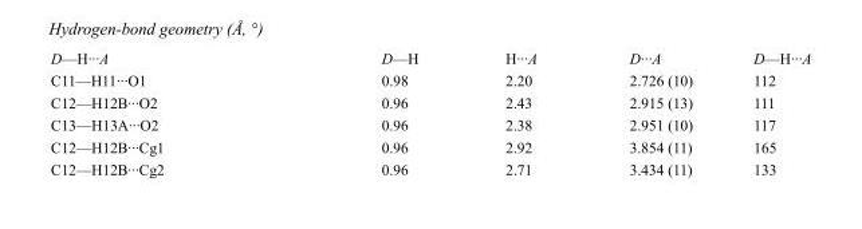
<table><tbody><tr><td>D—H···A</td><td>D—H</td><td>H···A</td><td>D···A</td><td>D—H···A</td></tr><tr><td>C11—H11···O1</td><td>0.98</td><td>2.20</td><td>2.726 (10)</td><td>112</td></tr><tr><td>C12—H12B···O2</td><td>0.96</td><td>2.43</td><td>2.915 (13)</td><td>111</td></tr><tr><td>C13—H13A···O2</td><td>0.96</td><td>2.38</td><td>2.951 (10)</td><td>117</td></tr><tr><td>C12—H12B···Cg1</td><td>0.96</td><td>2.92</td><td>3.854 (11)</td><td>165</td></tr><tr><td>C12—H12B···Cg2</td><td>0.96</td><td>2.71</td><td>3.434 (11)</td><td>133</td></tr></tbody></table>